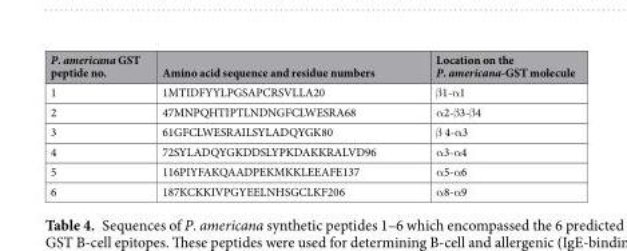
<table><thead><tr><td>P. americana GST peptide no.</td><td>Amino acid sequence and residue numbers</td><td>Location on the P. americana-GST molecule</td></tr></thead><tbody><tr><td>1</td><td>1MTIDFYYLPGSAPCRSVLLA20</td><td>β1-α1</td></tr><tr><td>2</td><td>47MNPQHTIPTLNDNGFCLWESRA68</td><td>α2-β3-β4</td></tr><tr><td>3</td><td>61GFCLWESRAILSYLADQYGK80</td><td>β 4-α3</td></tr><tr><td>4</td><td>72SYLADQYGKDDSLYPKDAKKRALVD96</td><td>α3-α4</td></tr><tr><td>5</td><td>116PIYFAKQAADPEKMKKLEEAFE137</td><td>α5-α6</td></tr><tr><td>6</td><td>187KCKKIVPGYEELNHSGCLKF206</td><td>α8-α9</td></tr></tbody></table>